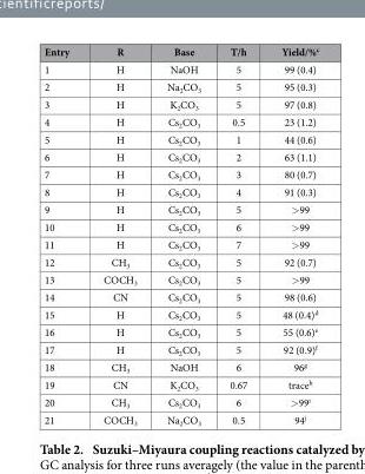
<table><thead><tr><td>Entry</td><td>R</td><td>Base</td><td>T/h</td><td>Yield/%<sup>c</sup></td></tr></thead><tbody><tr><td>1</td><td>H</td><td>NaOH</td><td>5</td><td>99 (0.4)</td></tr><tr><td>2</td><td>H</td><td>Na<sub>2</sub>CO<sub>3</sub></td><td>5</td><td>95 (0.3)</td></tr><tr><td>3</td><td>H</td><td>K<sub>2</sub>CO<sub>3</sub></td><td>5</td><td>97 (0.8)</td></tr><tr><td>4</td><td>H</td><td>Cs<sub>2</sub>CO<sub>3</sub></td><td>0.5</td><td>23 (1.2)</td></tr><tr><td>5</td><td>H</td><td>Cs<sub>2</sub>CO<sub>3</sub></td><td>1</td><td>44 (0.6)</td></tr><tr><td>6</td><td>H</td><td>Cs<sub>2</sub>CO<sub>3</sub></td><td>2</td><td>63 (1.1)</td></tr><tr><td>7</td><td>H</td><td>Cs<sub>2</sub>CO<sub>3</sub></td><td>3</td><td>80 (0.7)</td></tr><tr><td>8</td><td>H</td><td>Cs<sub>2</sub>CO<sub>3</sub></td><td>4</td><td>91 (0.3)</td></tr><tr><td>9</td><td>H</td><td>Cs<sub>2</sub>CO<sub>3</sub></td><td>5</td><td>&gt; 99</td></tr><tr><td>10</td><td>H</td><td>Cs<sub>2</sub>CO<sub>3</sub></td><td>6</td><td>&gt; 99</td></tr><tr><td>11</td><td>H</td><td>Cs<sub>2</sub>CO<sub>3</sub></td><td>7</td><td>&gt; 99</td></tr><tr><td>12</td><td>CH<sub>3</sub></td><td>Cs<sub>2</sub>CO<sub>3</sub></td><td>5</td><td>92 (0.7)</td></tr><tr><td>13</td><td>COCH<sub>3</sub></td><td>Cs<sub>2</sub>CO<sub>3</sub></td><td>5</td><td>&gt; 99</td></tr><tr><td>14</td><td>CN</td><td>Cs<sub>2</sub>CO<sub>3</sub></td><td>5</td><td>98 (0.6)</td></tr><tr><td>15</td><td>H</td><td>Cs<sub>2</sub>CO<sub>3</sub></td><td>5</td><td>48 (0.4)<sup>d</sup></td></tr><tr><td>16</td><td>H</td><td>Cs<sub>2</sub>CO<sub>3</sub></td><td>5</td><td>55 (0.6)<sup>e</sup></td></tr><tr><td>17</td><td>H</td><td>Cs<sub>2</sub>CO<sub>3</sub></td><td>5</td><td>92 (0.9)<sup>f</sup></td></tr><tr><td>18</td><td>CH<sub>3</sub></td><td>NaOH</td><td>6</td><td>96<sup>g</sup></td></tr><tr><td>19</td><td>CN</td><td>K<sub>2</sub>CO<sub>3</sub></td><td>0.67</td><td>trace<sup>h</sup></td></tr><tr><td>20</td><td>CH<sub>3</sub></td><td>Cs<sub>2</sub>CO<sub>3</sub></td><td>6</td><td>&gt; 99<sup>i</sup></td></tr><tr><td>21</td><td>COCH<sub>3</sub></td><td>Na<sub>2</sub>CO<sub>3</sub></td><td>0.5</td><td>94<sup>j</sup></td></tr></tbody></table>